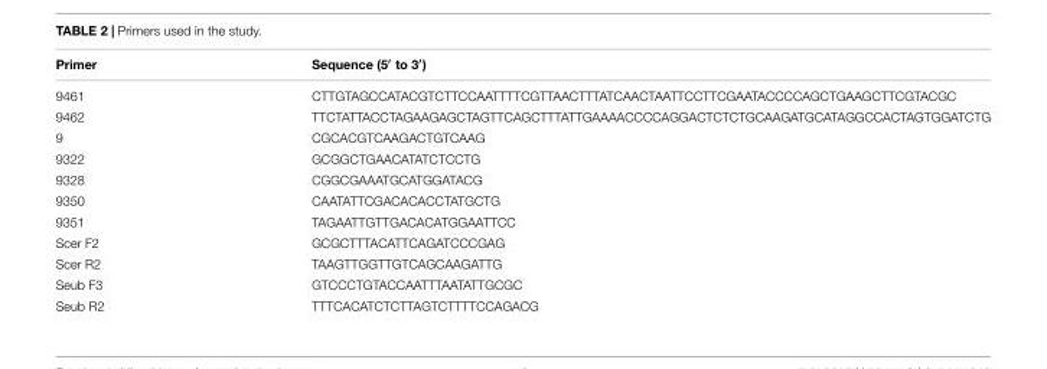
<table><thead><tr><td>Primer</td><td>Sequence (5′ to 3′)</td></tr></thead><tbody><tr><td>9461</td><td>CTTGTAGCCATACGTCTTCCAATTTTCGTTAACTTTATCAACTAATTCCTTCGAATACCCCAGCTGAAGCTTCGTACGC</td></tr><tr><td>9462</td><td>TTCTATTACCTAGAAGAGCTAGTTCAGCTTTATTGAAAACCCCAGGACTCTCTGCAAGATGCATAGGCCACTAGTGGATCTG</td></tr><tr><td>9</td><td>CGCACGTCAAGACTGTCAAG</td></tr><tr><td>9322</td><td>GCGGCTGAACATATCTCCTG</td></tr><tr><td>9328</td><td>CGGCGAAATGCATGGATACG</td></tr><tr><td>9350</td><td>CAATATTCGACACACCTATGCTG</td></tr><tr><td>9351</td><td>TAGAATTGTTGACACATGGAATTCC</td></tr><tr><td>Scer F2</td><td>GCGCTTTACATTCAGATCCCGAG</td></tr><tr><td>Scer R2</td><td>TAAGTTGGTTGTCAGCAAGATTG</td></tr><tr><td>Seub F3</td><td>GTCCCTGTACCAATTTAATATTGCGC</td></tr><tr><td>Seub R2</td><td>TTTCACATCTCTTAGTCTTTTCCAGACG</td></tr></tbody></table>